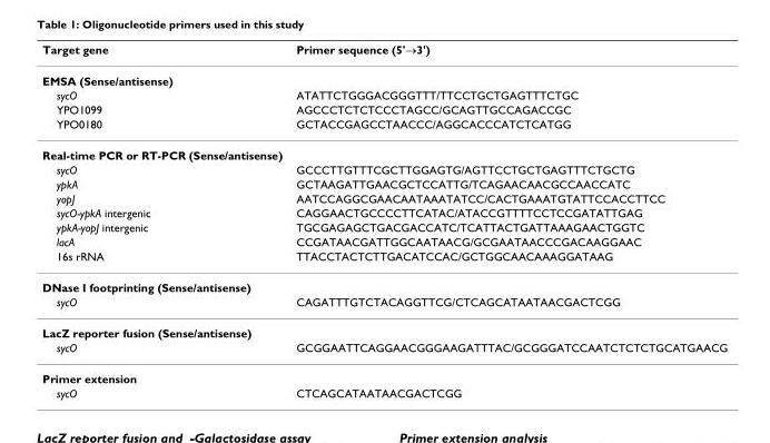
<table><thead><tr><td>Target gene</td><td>Primer sequence (5&#x27;→3&#x27;)</td></tr></thead><tbody><tr><td colspan="2">EMSA (Sense/antisense)</td></tr><tr><td>sycO</td><td>ATATTCTGGGACGGGTTT/TTCCTGCTGAGTTTCTGC</td></tr><tr><td>YPO1099</td><td>AGCCCTCTCTCCCTAGCC/GCAGTTGCCAGACCGC</td></tr><tr><td>YPO0180</td><td>GCTACCGAGCCTAACCC/AGGCACCCATCTCATGG</td></tr><tr><td colspan="2">Real-time PCR or RT-PCR (Sense/antisense)</td></tr><tr><td>sycO</td><td>GCCCTTGTTTCGCTTGGAGTG/AGTTCCTGCTGAGTTTCTGCTG</td></tr><tr><td>ypkA</td><td>GCTAAGATTGAACGCTCCATTG/TCAGAACAACGCCAACCATC</td></tr><tr><td>yopJ</td><td>AATCCAGGCGAACAATAAATATCC/CACTGAAATGTATTCCACCTTCC</td></tr><tr><td>sycO-ypkA intergenic</td><td>CAGGAACTGCCCCTTCATAC/ATACCGTTTTCCTCCGATATTGAG</td></tr><tr><td>ypkA-yopJ intergenic</td><td>TGCGAGAGCTGACGACCATC/TCATTACTGATTAAAGAACTGGTC</td></tr><tr><td>lacA</td><td>CCGATAACGATTGGCAATAACG/GCGAATAACCCGACAAGGAAC</td></tr><tr><td>16s rRNA</td><td>TTACCTACTCTTGACATCCAC/GCTGGCAACAAAGGATAAG</td></tr><tr><td colspan="2">DNase I footprinting (Sense/antisense)</td></tr><tr><td>sycO</td><td>CAGATTTGTCTACAGGTTCG/CTCAGCATAATAACGACTCGG</td></tr><tr><td colspan="2">LacZ reporter fusion (Sense/antisense)</td></tr><tr><td>sycO</td><td>GCGGAATTCAGGAACGGGAAGATTTAC/GCGGGATCCAATCTCTCTGCATGAACG</td></tr><tr><td colspan="2">Primer extension</td></tr><tr><td>sycO</td><td>CTCAGCATAATAACGACTCGG</td></tr></tbody></table>